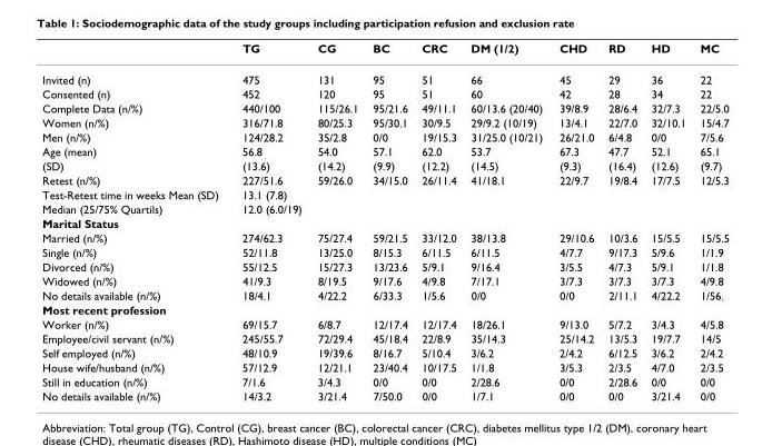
<table><thead><tr><td></td><td>TG</td><td>CG</td><td>BC</td><td>CRC</td><td>DM (1/2)</td><td>CHD</td><td>RD</td><td>HD</td><td>MC</td></tr></thead><tbody><tr><td>Invited (n)</td><td>475</td><td>131</td><td>95</td><td>51</td><td>66</td><td>45</td><td>29</td><td>36</td><td>22</td></tr><tr><td>Consented (n)</td><td>452</td><td>120</td><td>95</td><td>51</td><td>60</td><td>42</td><td>28</td><td>34</td><td>22</td></tr><tr><td>Complete Data (n/%)</td><td>440/100</td><td>115/26.1</td><td>95/21.6</td><td>49/11.1</td><td>60/13.6 (20/40)</td><td>39/8.9</td><td>28/6.4</td><td>32/7.3</td><td>22/5.0</td></tr><tr><td>Women (n/%)</td><td>316/71.8</td><td>80/25.3</td><td>95/30.1</td><td>30/9.5</td><td>29/9.2 (10/19)</td><td>13/4.1</td><td>22/7.0</td><td>32/10.1</td><td>15/4.7</td></tr><tr><td>Men (n/%)</td><td>124/28.2</td><td>35/2.8</td><td>0/0</td><td>19/15.3</td><td>31/25.0 (10/21)</td><td>26/21.0</td><td>6/4.8</td><td>0/0</td><td>7/5.6</td></tr><tr><td>Age (mean)</td><td>56.8</td><td>54.0</td><td>57.1</td><td>62.0</td><td>53.7</td><td>67.3</td><td>47.7</td><td>52.1</td><td>65.1</td></tr><tr><td>(SD)</td><td>(13.6)</td><td>(14.2)</td><td>(9.9)</td><td>(12.2)</td><td>(14.5)</td><td>(9.3)</td><td>(16.4)</td><td>(12.6)</td><td>(9.7)</td></tr><tr><td>Retest (n/%)</td><td>227/51.6</td><td>59/26.0</td><td>34/15.0</td><td>26/11.4</td><td>41/18.1</td><td>22/9.7</td><td>19/8.4</td><td>17/7.5</td><td>12/5.3</td></tr><tr><td>Test-Retest time in weeks Mean (SD)</td><td>13.1 (7.8)</td><td></td><td></td><td></td><td></td><td></td><td></td><td></td><td></td></tr><tr><td>Median (25/75% Quartils)</td><td>12.0 (6.0/19)</td><td></td><td></td><td></td><td></td><td></td><td></td><td></td><td></td></tr><tr><td colspan="10">Marital Status</td></tr><tr><td>Married (n/%)</td><td>274/62.3</td><td>75/27.4</td><td>59/21.5</td><td>33/12.0</td><td>38/13.8</td><td>29/10.6</td><td>10/3.6</td><td>15/5.5</td><td>15/5.5</td></tr><tr><td>Single (n/%)</td><td>52/11.8</td><td>13/25.0</td><td>8/15.3</td><td>6/11.5</td><td>6/11.5</td><td>4/7.7</td><td>9/17.3</td><td>5/9.6</td><td>1/1.9</td></tr><tr><td>Divorced (n/%)</td><td>55/12.5</td><td>15/27.3</td><td>13/23.6</td><td>5/9.1</td><td>9/16.4</td><td>3/5.5</td><td>4/7.3</td><td>5/9.1</td><td>1/1.8</td></tr><tr><td>Widowed (n/%)</td><td>41/9.3</td><td>8/19.5</td><td>9/17.6</td><td>4/9.8</td><td>7/17.1</td><td>3/7.3</td><td>3/7.3</td><td>3/7.3</td><td>4/9.8</td></tr><tr><td>No details available (n/%)</td><td>18/4.1</td><td>4/22.2</td><td>6/33.3</td><td>1/5.6</td><td>0/0</td><td>0/0</td><td>2/11.1</td><td>4/22.2</td><td>1/56.</td></tr><tr><td colspan="10">Most recent profession</td></tr><tr><td>Worker (n/%)</td><td>69/15.7</td><td>6/8.7</td><td>12/17.4</td><td>12/17.4</td><td>18/26.1</td><td>9/13.0</td><td>5/7.2</td><td>3/4.3</td><td>4/5.8</td></tr><tr><td>Employee/civil servant (n/%)</td><td>245/55.7</td><td>72/29.4</td><td>45/18.4</td><td>22/8.9</td><td>35/14.3</td><td>25/14.2</td><td>13/5.3</td><td>19/7.7</td><td>14/5</td></tr><tr><td>Self employed (n/%)</td><td>48/10.9</td><td>19/39.6</td><td>8/16.7</td><td>5/10.4</td><td>3/6.2</td><td>2/4.2</td><td>6/12.5</td><td>3/6.2</td><td>2/4.2</td></tr><tr><td>House wife/husband (n/%)</td><td>57/12.9</td><td>12/21.1</td><td>23/40.4</td><td>10/17.5</td><td>1/1.8</td><td>3/5.3</td><td>2/3.5</td><td>4/7.0</td><td>2/3.5</td></tr><tr><td>Still in education (n/%)</td><td>7/1.6</td><td>3/4.3</td><td>0/0</td><td>0/0</td><td>2/28.6</td><td>0/0</td><td>2/28.6</td><td>0/0</td><td>0/0</td></tr><tr><td>No details available (n/%)</td><td>14/3.2</td><td>3/21.4</td><td>7/50.0</td><td>0/0</td><td>1/7.1</td><td>0/0</td><td>0/0</td><td>3/21.4</td><td>0/0</td></tr></tbody></table>